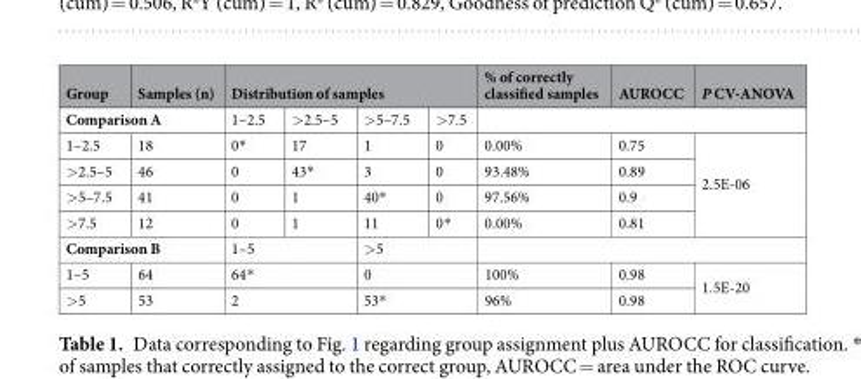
<table><thead><tr><td>Group</td><td>Samples (n)</td><td colspan="4">Distribution of samples</td><td>% of correctly classified samples</td><td>AUROCC</td><td>P CV-ANOVA</td></tr><tr><td colspan="2">Comparison A</td><td>1–2.5</td><td>&gt;2.5–5</td><td>&gt;5–7.5</td><td>&gt;7.5</td><td colspan="3"></td></tr></thead><tbody><tr><td>1–2.5</td><td>18</td><td>0*</td><td>17</td><td>1</td><td>0</td><td>0.00%</td><td>0.75</td><td rowspan="4">2.5E-06</td></tr><tr><td>&gt;2.5–5</td><td>46</td><td>0</td><td>43*</td><td>3</td><td>0</td><td>93.48%</td><td>0.89</td></tr><tr><td>&gt;5–7.5</td><td>41</td><td>0</td><td>1</td><td>40*</td><td>0</td><td>97.56%</td><td>0.9</td></tr><tr><td>&gt;7.5</td><td>12</td><td>0</td><td>1</td><td>11</td><td>0*</td><td>0.00%</td><td>0.81</td></tr><tr><td colspan="2">Comparison B</td><td colspan="2">1–5</td><td colspan="2">&gt;5</td><td colspan="3"></td></tr><tr><td>1–5</td><td>64</td><td colspan="2">64*</td><td colspan="2">0</td><td>100%</td><td>0.98</td><td rowspan="2">1.5E-20</td></tr><tr><td>&gt;5</td><td>53</td><td colspan="2">2</td><td colspan="2">53*</td><td>96%</td><td>0.98</td></tr></tbody></table>